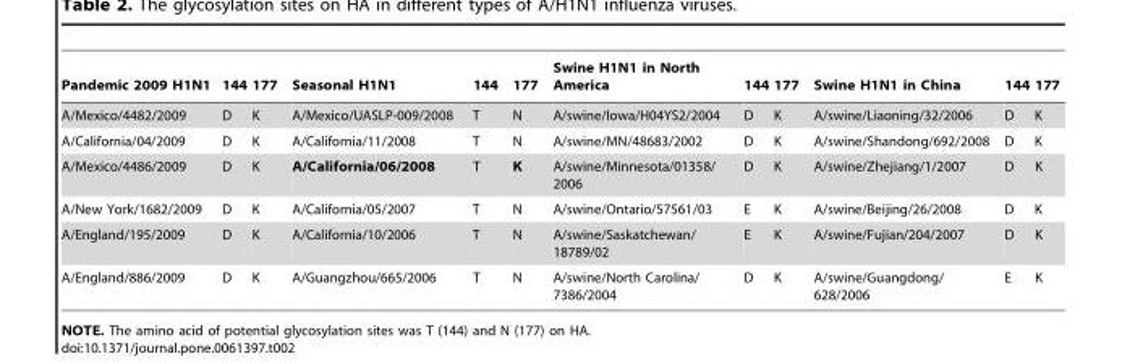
<table><thead><tr><td>Pandemic 2009 H1N1</td><td>144</td><td>177</td><td>Seasonal H1N1</td><td>144</td><td>177</td><td>Swine H1N1 in North America</td><td>144</td><td>177</td><td>Swine H1N1 in China</td><td>144</td><td>177</td></tr></thead><tbody><tr><td>A/Mexico/4482/2009</td><td>D</td><td>K</td><td>A/Mexico/UASLP-009/2008</td><td>T</td><td>N</td><td>A/swine/Iowa/H04YS2/2004</td><td>D</td><td>K</td><td>A/swine/Liaoning/32/2006</td><td>D</td><td>K</td></tr><tr><td>A/California/04/2009</td><td>D</td><td>K</td><td>A/California/11/2008</td><td>T</td><td>N</td><td>A/swine/MN/48683/2002</td><td>D</td><td>K</td><td>A/swine/Shandong/692/2008</td><td>D</td><td>K</td></tr><tr><td>A/Mexico/4486/2009</td><td>D</td><td>K</td><td>A/California/06/2008</td><td>T</td><td>K</td><td>A/swine/Minnesota/01358/ 2006</td><td>D</td><td>K</td><td>A/swine/Zhejiang/1/2007</td><td>D</td><td>K</td></tr><tr><td>A/New York/1682/2009</td><td>D</td><td>K</td><td>A/California/05/2007</td><td>T</td><td>N</td><td>A/swine/Ontario/57561/03</td><td>E</td><td>K</td><td>A/swine/Beijing/26/2008</td><td>D</td><td>K</td></tr><tr><td>A/England/195/2009</td><td>D</td><td>K</td><td>A/California/10/2006</td><td>T</td><td>N</td><td>A/swine/Saskatchewan/ 18789/02</td><td>E</td><td>K</td><td>A/swine/Fujian/204/2007</td><td>D</td><td>K</td></tr><tr><td>A/England/886/2009</td><td>D</td><td>K</td><td>A/Guangzhou/665/2006</td><td>T</td><td>N</td><td>A/swine/North Carolina/ 7386/2004</td><td>D</td><td>K</td><td>A/swine/Guangdong/ 628/2006</td><td>E</td><td>K</td></tr></tbody></table>